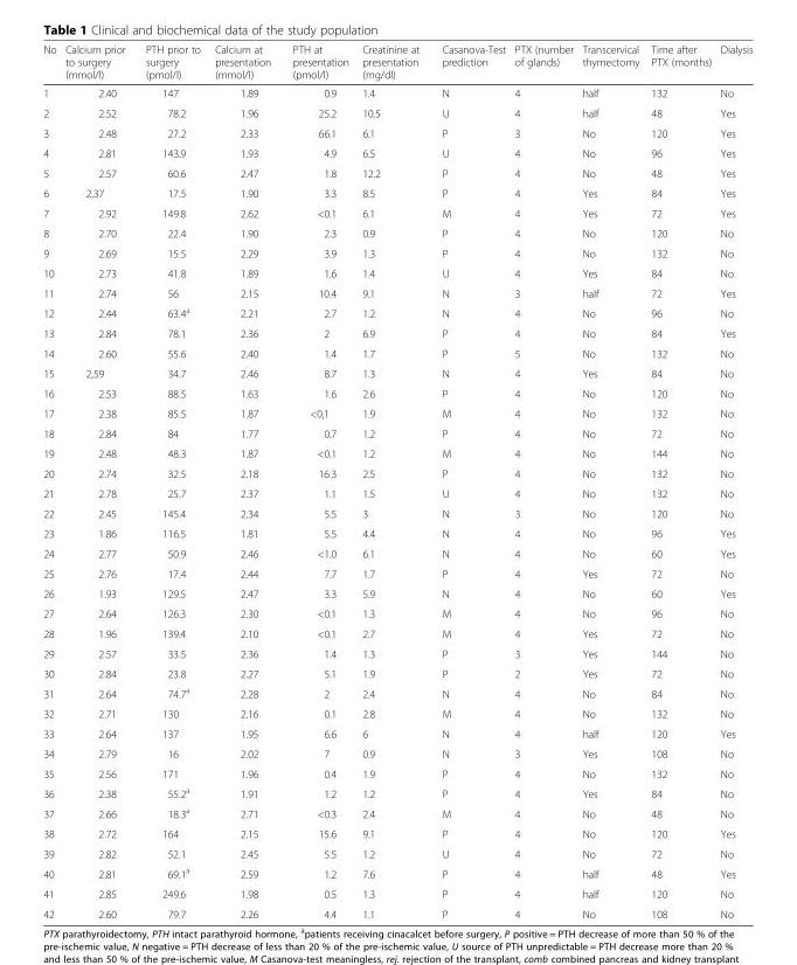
<table><thead><tr><td>No</td><td>Calcium prior to surgery (mmol/l)</td><td>PTH prior to surgery (pmol/l)</td><td>Calcium at presentation (mmol/l)</td><td>PTH at presentation (pmol/l)</td><td>Creatinine at presentation (mg/dl)</td><td>Casanova-Test prediction</td><td>PTX (number of glands)</td><td>Transcervical thymectomy</td><td>Time after PTX (months)</td><td>Dialysis</td></tr></thead><tbody><tr><td>1</td><td>2.40</td><td>147</td><td>1.89</td><td>0.9</td><td>1.4</td><td>N</td><td>4</td><td>half</td><td>132</td><td>No</td></tr><tr><td>2</td><td>2.52</td><td>78.2</td><td>1.96</td><td>25.2</td><td>10.5</td><td>U</td><td>4</td><td>half</td><td>48</td><td>Yes</td></tr><tr><td>3</td><td>2.48</td><td>27.2</td><td>2.33</td><td>66.1</td><td>6.1</td><td>P</td><td>3</td><td>No</td><td>120</td><td>Yes</td></tr><tr><td>4</td><td>2.81</td><td>143.9</td><td>1.93</td><td>4.9</td><td>6.5</td><td>U</td><td>4</td><td>No</td><td>96</td><td>Yes</td></tr><tr><td>5</td><td>2.57</td><td>60.6</td><td>2.47</td><td>1.8</td><td>12.2</td><td>P</td><td>4</td><td>No</td><td>48</td><td>Yes</td></tr><tr><td>6</td><td>2,37</td><td>17.5</td><td>1.90</td><td>3.3</td><td>8.5</td><td>P</td><td>4</td><td>Yes</td><td>84</td><td>Yes</td></tr><tr><td>7</td><td>2.92</td><td>149.8</td><td>2.62</td><td>&lt;0.1</td><td>6.1</td><td>M</td><td>4</td><td>Yes</td><td>72</td><td>Yes</td></tr><tr><td>8</td><td>2.70</td><td>22.4</td><td>1.90</td><td>2.3</td><td>0.9</td><td>P</td><td>4</td><td>No</td><td>120</td><td>No</td></tr><tr><td>9</td><td>2.69</td><td>15.5</td><td>2.29</td><td>3.9</td><td>1.3</td><td>P</td><td>4</td><td>No</td><td>132</td><td>No</td></tr><tr><td>10</td><td>2.73</td><td>41.8</td><td>1.89</td><td>1.6</td><td>1.4</td><td>U</td><td>4</td><td>Yes</td><td>84</td><td>No</td></tr><tr><td>11</td><td>2.74</td><td>56</td><td>2.15</td><td>10.4</td><td>9.1</td><td>N</td><td>3</td><td>half</td><td>72</td><td>Yes</td></tr><tr><td>12</td><td>2.44</td><td>63.4<sup>a</sup></td><td>2.21</td><td>2.7</td><td>1.2</td><td>N</td><td>4</td><td>No</td><td>96</td><td>No</td></tr><tr><td>13</td><td>2.84</td><td>78.1</td><td>2.36</td><td>2</td><td>6.9</td><td>P</td><td>4</td><td>No</td><td>84</td><td>Yes</td></tr><tr><td>14</td><td>2.60</td><td>55.6</td><td>2.40</td><td>1.4</td><td>1.7</td><td>P</td><td>5</td><td>No</td><td>132</td><td>No</td></tr><tr><td>15</td><td>2,59</td><td>34.7</td><td>2.46</td><td>8.7</td><td>1.3</td><td>N</td><td>4</td><td>Yes</td><td>84</td><td>No</td></tr><tr><td>16</td><td>2.53</td><td>88.5</td><td>1.63</td><td>1.6</td><td>2.6</td><td>P</td><td>4</td><td>No</td><td>120</td><td>No</td></tr><tr><td>17</td><td>2.38</td><td>85.5</td><td>1.87</td><td>&lt;0,1</td><td>1.9</td><td>M</td><td>4</td><td>No</td><td>132</td><td>No</td></tr><tr><td>18</td><td>2.84</td><td>84</td><td>1.77</td><td>0.7</td><td>1.2</td><td>P</td><td>4</td><td>No</td><td>72</td><td>No</td></tr><tr><td>19</td><td>2.48</td><td>48.3</td><td>1.87</td><td>&lt;0.1</td><td>1.2</td><td>M</td><td>4</td><td>No</td><td>144</td><td>No</td></tr><tr><td>20</td><td>2.74</td><td>32.5</td><td>2.18</td><td>16.3</td><td>2.5</td><td>P</td><td>4</td><td>No</td><td>132</td><td>No</td></tr><tr><td>21</td><td>2.78</td><td>25.7</td><td>2.37</td><td>1.1</td><td>1.5</td><td>U</td><td>4</td><td>No</td><td>132</td><td>No</td></tr><tr><td>22</td><td>2.45</td><td>145.4</td><td>2.34</td><td>5.5</td><td>3</td><td>N</td><td>3</td><td>No</td><td>120</td><td>No</td></tr><tr><td>23</td><td>1.86</td><td>116.5</td><td>1.81</td><td>5.5</td><td>4.4</td><td>N</td><td>4</td><td>No</td><td>96</td><td>Yes</td></tr><tr><td>24</td><td>2.77</td><td>50.9</td><td>2.46</td><td>&lt;1.0</td><td>6.1</td><td>N</td><td>4</td><td>No</td><td>60</td><td>Yes</td></tr><tr><td>25</td><td>2.76</td><td>17.4</td><td>2.44</td><td>7.7</td><td>1.7</td><td>P</td><td>4</td><td>Yes</td><td>72</td><td>No</td></tr><tr><td>26</td><td>1.93</td><td>129.5</td><td>2.47</td><td>3.3</td><td>5.9</td><td>N</td><td>4</td><td>No</td><td>60</td><td>Yes</td></tr><tr><td>27</td><td>2.64</td><td>126.3</td><td>2.30</td><td>&lt;0.1</td><td>1.3</td><td>M</td><td>4</td><td>No</td><td>96</td><td>No</td></tr><tr><td>28</td><td>1.96</td><td>139.4</td><td>2.10</td><td>&lt;0.1</td><td>2.7</td><td>M</td><td>4</td><td>Yes</td><td>72</td><td>No</td></tr><tr><td>29</td><td>2.57</td><td>33.5</td><td>2.36</td><td>1.4</td><td>1.3</td><td>P</td><td>3</td><td>Yes</td><td>144</td><td>No</td></tr><tr><td>30</td><td>2.84</td><td>23.8</td><td>2.27</td><td>5.1</td><td>1.9</td><td>P</td><td>2</td><td>Yes</td><td>72</td><td>No</td></tr><tr><td>31</td><td>2.64</td><td>74.7<sup>a</sup></td><td>2.28</td><td>2</td><td>2.4</td><td>N</td><td>4</td><td>No</td><td>84</td><td>No</td></tr><tr><td>32</td><td>2.71</td><td>130</td><td>2.16</td><td>0.1</td><td>2.8</td><td>M</td><td>4</td><td>No</td><td>132</td><td>No</td></tr><tr><td>33</td><td>2.64</td><td>137</td><td>1.95</td><td>6.6</td><td>6</td><td>N</td><td>4</td><td>half</td><td>120</td><td>Yes</td></tr><tr><td>34</td><td>2.79</td><td>16</td><td>2.02</td><td>7</td><td>0.9</td><td>N</td><td>3</td><td>Yes</td><td>108</td><td>No</td></tr><tr><td>35</td><td>2.56</td><td>171</td><td>1.96</td><td>0.4</td><td>1.9</td><td>P</td><td>4</td><td>No</td><td>132</td><td>No</td></tr><tr><td>36</td><td>2.38</td><td>55.2<sup>a</sup></td><td>1.91</td><td>1.2</td><td>1.2</td><td>P</td><td>4</td><td>Yes</td><td>84</td><td>No</td></tr><tr><td>37</td><td>2.66</td><td>18.3<sup>a</sup></td><td>2.71</td><td>&lt;0.3</td><td>2.4</td><td>M</td><td>4</td><td>No</td><td>48</td><td>No</td></tr><tr><td>38</td><td>2.72</td><td>164</td><td>2.15</td><td>15.6</td><td>9.1</td><td>P</td><td>4</td><td>No</td><td>120</td><td>Yes</td></tr><tr><td>39</td><td>2.82</td><td>52.1</td><td>2.45</td><td>5.5</td><td>1.2</td><td>U</td><td>4</td><td>No</td><td>72</td><td>No</td></tr><tr><td>40</td><td>2.81</td><td>69.1<sup>a</sup></td><td>2.59</td><td>1.2</td><td>7.6</td><td>P</td><td>4</td><td>half</td><td>48</td><td>Yes</td></tr><tr><td>41</td><td>2.85</td><td>249.6</td><td>1.98</td><td>0.5</td><td>1.3</td><td>P</td><td>4</td><td>half</td><td>120</td><td>No</td></tr><tr><td>42</td><td>2.60</td><td>79.7</td><td>2.26</td><td>4.4</td><td>1.1</td><td>P</td><td>4</td><td>No</td><td>108</td><td>No</td></tr></tbody></table>